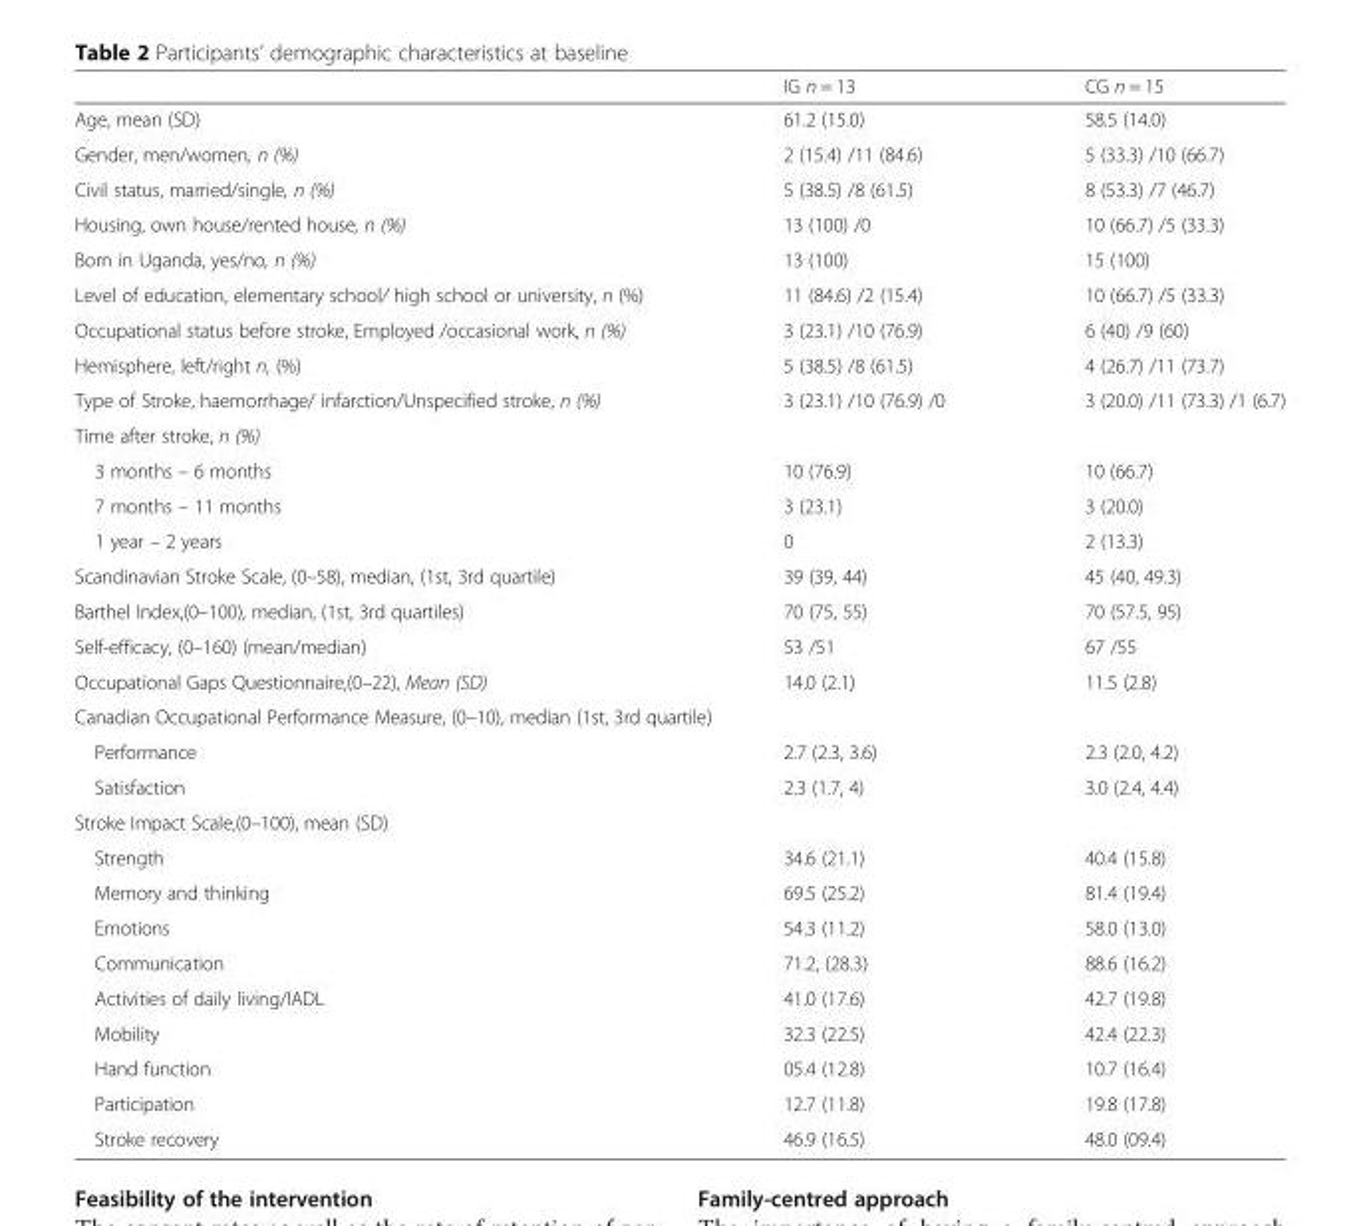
<table><thead><tr><td></td><td>IG n = 13</td><td>CG n = 15</td></tr></thead><tbody><tr><td>Age, mean (SD)</td><td>61.2 (15.0)</td><td>58.5 (14.0)</td></tr><tr><td>Gender, men/women, n (%)</td><td>2 (15.4) /11 (84.6)</td><td>5 (33.3) /10 (66.7)</td></tr><tr><td>Civil status, married/single, n (%)</td><td>5 (38.5) /8 (61.5)</td><td>8 (53.3) /7 (46.7)</td></tr><tr><td>Housing, own house/rented house, n (%)</td><td>13 (100) /0</td><td>10 (66.7) /5 (33.3)</td></tr><tr><td>Born in Uganda, yes/no, n (%)</td><td>13 (100)</td><td>15 (100)</td></tr><tr><td>Level of education, elementary school/ high school or university, n (%)</td><td>11 (84.6) /2 (15.4)</td><td>10 (66.7) /5 (33.3)</td></tr><tr><td>Occupational status before stroke, Employed /occasional work, n (%)</td><td>3 (23.1) /10 (76.9)</td><td>6 (40) /9 (60)</td></tr><tr><td>Hemisphere, left/right n, (%)</td><td>5 (38.5) /8 (61.5)</td><td>4 (26.7) /11 (73.7)</td></tr><tr><td>Type of Stroke, haemorrhage/ infarction/Unspecified stroke, n (%)</td><td>3 (23.1) /10 (76.9) /0</td><td>3 (20.0) /11 (73.3) /1 (6.7)</td></tr><tr><td colspan="3">Time after stroke, n (%)</td></tr><tr><td>3 months – 6 months</td><td>10 (76.9)</td><td>10 (66.7)</td></tr><tr><td>7 months – 11 months</td><td>3 (23.1)</td><td>3 (20.0)</td></tr><tr><td>1 year – 2 years</td><td>0</td><td>2 (13.3)</td></tr><tr><td>Scandinavian Stroke Scale, (0–58), median, (1st, 3rd quartile)</td><td>39 (39, 44)</td><td>45 (40, 49.3)</td></tr><tr><td>Barthel Index,(0–100), median, (1st, 3rd quartiles)</td><td>70 (75, 55)</td><td>70 (57.5, 95)</td></tr><tr><td>Self-efficacy, (0–160) (mean/median)</td><td>53 /51</td><td>67 /55</td></tr><tr><td>Occupational Gaps Questionnaire,(0–22), Mean (SD)</td><td>14.0 (2.1)</td><td>11.5 (2.8)</td></tr><tr><td colspan="3">Canadian Occupational Performance Measure, (0–10), median (1st, 3rd quartile)</td></tr><tr><td>Performance</td><td>2.7 (2.3, 3.6)</td><td>2.3 (2.0, 4.2)</td></tr><tr><td>Satisfaction</td><td>2.3 (1.7, 4)</td><td>3.0 (2.4, 4.4)</td></tr><tr><td colspan="3">Stroke Impact Scale,(0–100), mean (SD)</td></tr><tr><td>Strength</td><td>34.6 (21.1)</td><td>40.4 (15.8)</td></tr><tr><td>Memory and thinking</td><td>69.5 (25.2)</td><td>81.4 (19.4)</td></tr><tr><td>Emotions</td><td>54.3 (11.2)</td><td>58.0 (13.0)</td></tr><tr><td>Communication</td><td>71.2, (28.3)</td><td>88.6 (16.2)</td></tr><tr><td>Activities of daily living/IADL</td><td>41.0 (17.6)</td><td>42.7 (19.8)</td></tr><tr><td>Mobility</td><td>32.3 (22.5)</td><td>42.4 (22.3)</td></tr><tr><td>Hand function</td><td>05.4 (12.8)</td><td>10.7 (16.4)</td></tr><tr><td>Participation</td><td>12.7 (11.8)</td><td>19.8 (17.8)</td></tr><tr><td>Stroke recovery</td><td>46.9 (16.5)</td><td>48.0 (09.4)</td></tr></tbody></table>